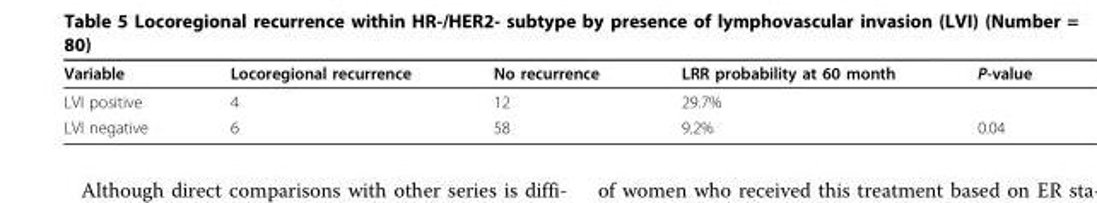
<table><thead><tr><td>Variable</td><td>Locoregional recurrence</td><td>No recurrence</td><td>LRR probability at 60 month</td><td>P-value</td></tr></thead><tbody><tr><td>LVI positive</td><td>4</td><td>12</td><td>29.7%</td><td></td></tr><tr><td>LVI negative</td><td>6</td><td>58</td><td>9.2%</td><td>0.04</td></tr></tbody></table>